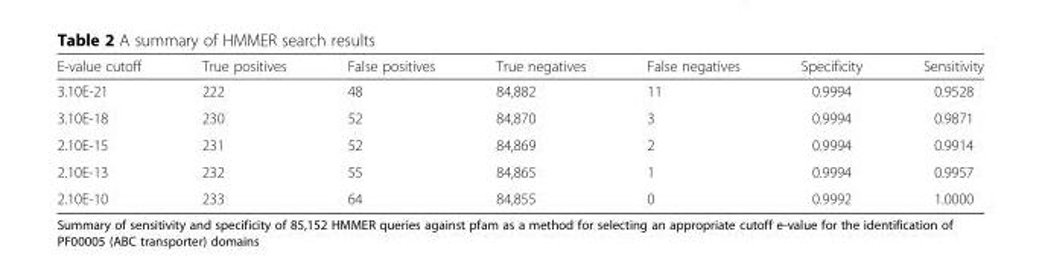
<table><thead><tr><td>E-value cutoff</td><td>True positives</td><td>False positives</td><td>True negatives</td><td>False negatives</td><td>Specificity</td><td>Sensitivity</td></tr></thead><tbody><tr><td>3.10E-21</td><td>222</td><td>48</td><td>84,882</td><td>11</td><td>0.9994</td><td>0.9528</td></tr><tr><td>3.10E-18</td><td>230</td><td>52</td><td>84,870</td><td>3</td><td>0.9994</td><td>0.9871</td></tr><tr><td>2.10E-15</td><td>231</td><td>52</td><td>84,869</td><td>2</td><td>0.9994</td><td>0.9914</td></tr><tr><td>2.10E-13</td><td>232</td><td>55</td><td>84,865</td><td>1</td><td>0.9994</td><td>0.9957</td></tr><tr><td>2.10E-10</td><td>233</td><td>64</td><td>84,855</td><td>0</td><td>0.9992</td><td>1.0000</td></tr></tbody></table>